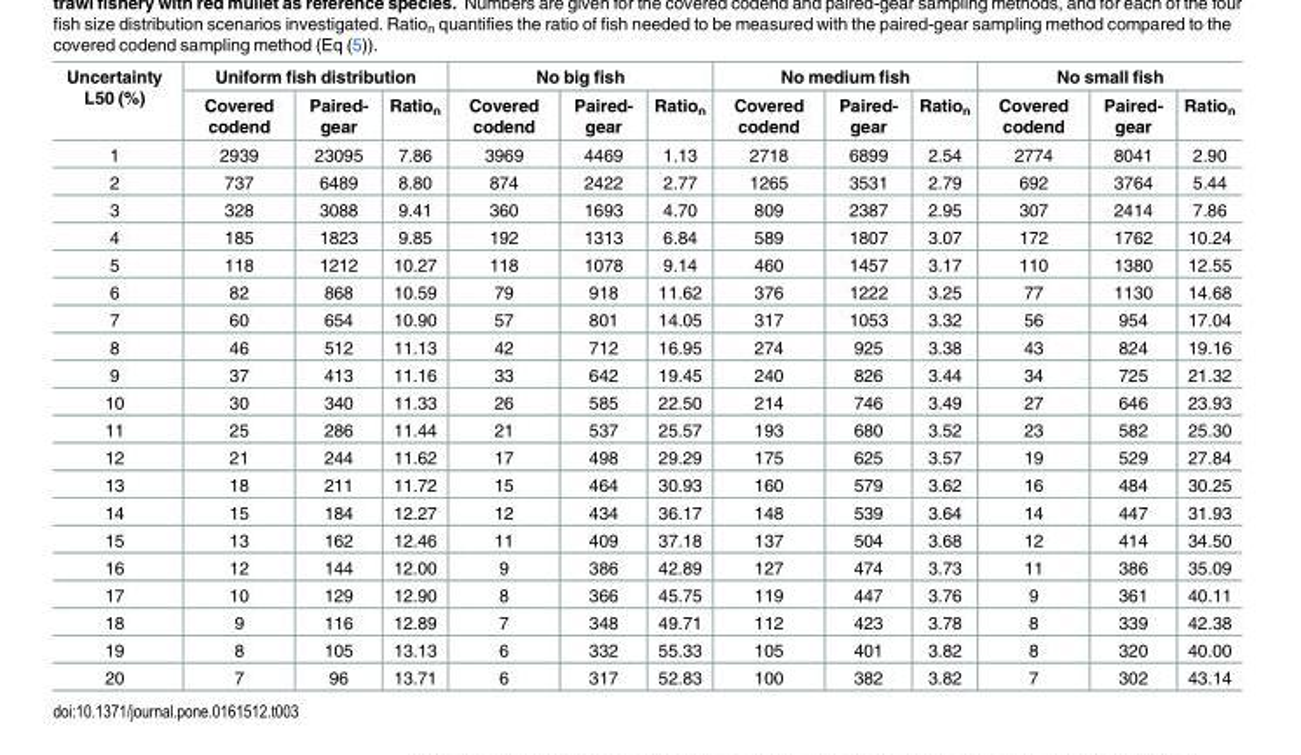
<table><thead><tr><td rowspan="2">Uncertainty L50 (%)</td><td colspan="3">Uniform fish distribution</td><td colspan="3">No big fish</td><td colspan="3">No medium fish</td><td colspan="3">No small fish</td></tr><tr><td>Covered codend</td><td>Paired- gear</td><td>Ratio<sub>n</sub></td><td>Covered codend</td><td>Paired- gear</td><td>Ratio<sub>n</sub></td><td>Covered codend</td><td>Paired- gear</td><td>Ratio<sub>n</sub></td><td>Covered codend</td><td>Paired- gear</td><td>Ratio<sub>n</sub></td></tr></thead><tbody><tr><td>1</td><td>2939</td><td>23095</td><td>7.86</td><td>3969</td><td>4469</td><td>1.13</td><td>2718</td><td>6899</td><td>2.54</td><td>2774</td><td>8041</td><td>2.90</td></tr><tr><td>2</td><td>737</td><td>6489</td><td>8.80</td><td>874</td><td>2422</td><td>2.77</td><td>1265</td><td>3531</td><td>2.79</td><td>692</td><td>3764</td><td>5.44</td></tr><tr><td>3</td><td>328</td><td>3088</td><td>9.41</td><td>360</td><td>1693</td><td>4.70</td><td>809</td><td>2387</td><td>2.95</td><td>307</td><td>2414</td><td>7.86</td></tr><tr><td>4</td><td>185</td><td>1823</td><td>9.85</td><td>192</td><td>1313</td><td>6.84</td><td>589</td><td>1807</td><td>3.07</td><td>172</td><td>1762</td><td>10.24</td></tr><tr><td>5</td><td>118</td><td>1212</td><td>10.27</td><td>118</td><td>1078</td><td>9.14</td><td>460</td><td>1457</td><td>3.17</td><td>110</td><td>1380</td><td>12.55</td></tr><tr><td>6</td><td>82</td><td>868</td><td>10.59</td><td>79</td><td>918</td><td>11.62</td><td>376</td><td>1222</td><td>3.25</td><td>77</td><td>1130</td><td>14.68</td></tr><tr><td>7</td><td>60</td><td>654</td><td>10.90</td><td>57</td><td>801</td><td>14.05</td><td>317</td><td>1053</td><td>3.32</td><td>56</td><td>954</td><td>17.04</td></tr><tr><td>8</td><td>46</td><td>512</td><td>11.13</td><td>42</td><td>712</td><td>16.95</td><td>274</td><td>925</td><td>3.38</td><td>43</td><td>824</td><td>19.16</td></tr><tr><td>9</td><td>37</td><td>413</td><td>11.16</td><td>33</td><td>642</td><td>19.45</td><td>240</td><td>826</td><td>3.44</td><td>34</td><td>725</td><td>21.32</td></tr><tr><td>10</td><td>30</td><td>340</td><td>11.33</td><td>26</td><td>585</td><td>22.50</td><td>214</td><td>746</td><td>3.49</td><td>27</td><td>646</td><td>23.93</td></tr><tr><td>11</td><td>25</td><td>286</td><td>11.44</td><td>21</td><td>537</td><td>25.57</td><td>193</td><td>680</td><td>3.52</td><td>23</td><td>582</td><td>25.30</td></tr><tr><td>12</td><td>21</td><td>244</td><td>11.62</td><td>17</td><td>498</td><td>29.29</td><td>175</td><td>625</td><td>3.57</td><td>19</td><td>529</td><td>27.84</td></tr><tr><td>13</td><td>18</td><td>211</td><td>11.72</td><td>15</td><td>464</td><td>30.93</td><td>160</td><td>579</td><td>3.62</td><td>16</td><td>484</td><td>30.25</td></tr><tr><td>14</td><td>15</td><td>184</td><td>12.27</td><td>12</td><td>434</td><td>36.17</td><td>148</td><td>539</td><td>3.64</td><td>14</td><td>447</td><td>31.93</td></tr><tr><td>15</td><td>13</td><td>162</td><td>12.46</td><td>11</td><td>409</td><td>37.18</td><td>137</td><td>504</td><td>3.68</td><td>12</td><td>414</td><td>34.50</td></tr><tr><td>16</td><td>12</td><td>144</td><td>12.00</td><td>9</td><td>386</td><td>42.89</td><td>127</td><td>474</td><td>3.73</td><td>11</td><td>386</td><td>35.09</td></tr><tr><td>17</td><td>10</td><td>129</td><td>12.90</td><td>8</td><td>366</td><td>45.75</td><td>119</td><td>447</td><td>3.76</td><td>9</td><td>361</td><td>40.11</td></tr><tr><td>18</td><td>9</td><td>116</td><td>12.89</td><td>7</td><td>348</td><td>49.71</td><td>112</td><td>423</td><td>3.78</td><td>8</td><td>339</td><td>42.38</td></tr><tr><td>19</td><td>8</td><td>105</td><td>13.13</td><td>6</td><td>332</td><td>55.33</td><td>105</td><td>401</td><td>3.82</td><td>8</td><td>320</td><td>40.00</td></tr><tr><td>20</td><td>7</td><td>96</td><td>13.71</td><td>6</td><td>317</td><td>52.83</td><td>100</td><td>382</td><td>3.82</td><td>7</td><td>302</td><td>43.14</td></tr></tbody></table>